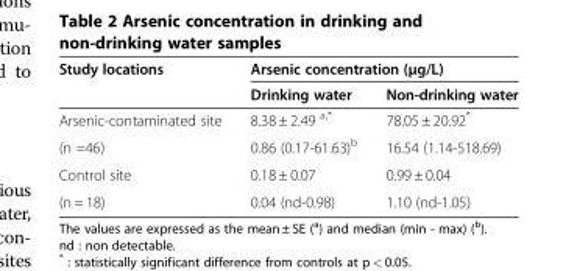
<table><thead><tr><td rowspan="2">Study locations</td><td colspan="2">Arsenic concentration (μg/L)</td></tr><tr><td>Drinking water</td><td>Non-drinking water</td></tr></thead><tbody><tr><td>Arsenic-contaminated site</td><td>8.38 ± 2.49 <sup>a,*</sup></td><td>78.05 ± 20.92*</td></tr><tr><td>(n =46)</td><td>0.86 (0.17-61.63)<sup>b</sup></td><td>16.54 (1.14-518.69)</td></tr><tr><td>Control site</td><td>0.18 ± 0.07</td><td>0.99 ± 0.04</td></tr><tr><td>(n = 18)</td><td>0.04 (nd-0.98)</td><td>1.10 (nd-1.05)</td></tr></tbody></table>